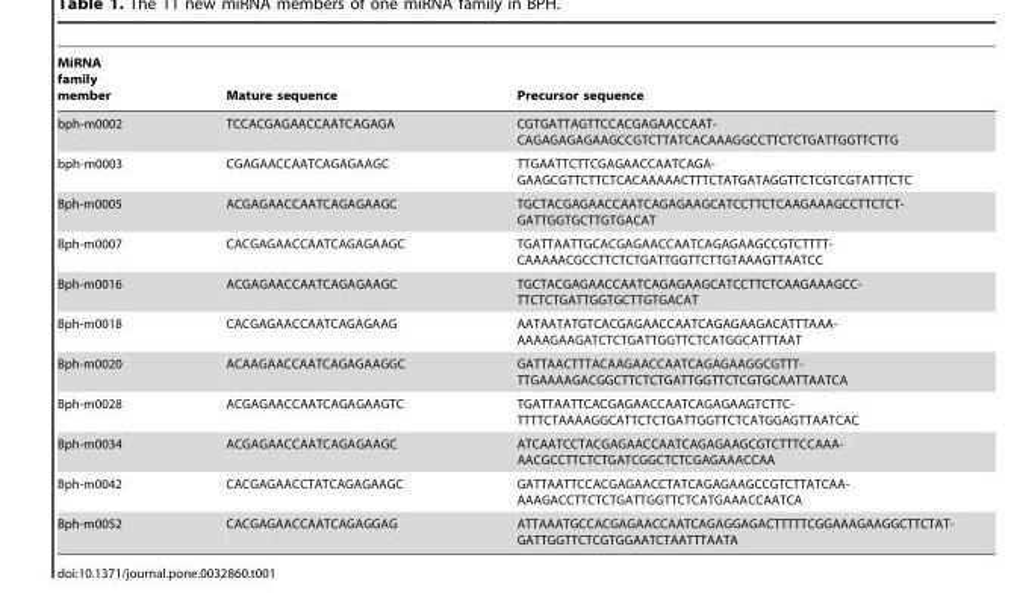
<table><thead><tr><td>MiRNA family member</td><td>Mature sequence</td><td>Precursor sequence</td></tr></thead><tbody><tr><td>bph-m0002</td><td>TCCACGAGAACCAATCAGAGA</td><td>CGTGATTAGTTCCACGAGAACCAAT- CAGAGAGAGAAGCCGTCTTATCACAAAGGCCTTCTCTGATTGGTTCTTG</td></tr><tr><td>bph-m0003</td><td>CGAGAACCAATCAGAGAAGC</td><td>TTGAATTCTTCGAGAACCAATCAGA- GAAGCGTTCTTCTCACAAAAACTTTCTATGATAGGTTCTCGTCGTATTTCTC</td></tr><tr><td>Bph-m0005</td><td>ACGAGAACCAATCAGAGAAGC</td><td>TGCTACGAGAACCAATCAGAGAAGCATCCTTCTCAAGAAAGCCTTCTCT- GATTGGTGCTTGTGACAT</td></tr><tr><td>Bph-m0007</td><td>CACGAGAACCAATCAGAGAAGC</td><td>TGATTAATTGCACGAGAACCAATCAGAGAAGCCGTCTTTT- CAAAAACGCCTTCTCTGATTGGTTCTTGTAAAGTTAATCC</td></tr><tr><td>Bph-m0016</td><td>ACGAGAACCAATCAGAGAAGC</td><td>TGCTACGAGAACCAATCAGAGAAGCATCCTTCTCAAGAAAGCC- TTCTCTGATTGGTGCTTGTGACAT</td></tr><tr><td>Bph-m0018</td><td>CACGAGAACCAATCAGAGAAG</td><td>AATAATATGTCACGAGAACCAATCAGAGAAGACATTTAAA- AAAAGAAGATCTCTGATTGGTTCTCATGGCATTTAAT</td></tr><tr><td>Bph-m0020</td><td>ACAAGAACCAATCAGAGAAGGC</td><td>GATTAACTTTACAAGAACCAATCAGAGAAGGCGTTT- TTGAAAAGACGGCTTCTCTGATTGGTTCTCGTGCAATTAATCA</td></tr><tr><td>Bph-m0028</td><td>ACGAGAACCAATCAGAGAAGTC</td><td>TGATTAATTCACGAGAACCAATCAGAGAAGTCTTC- TTTTCTAAAAGGCATTCTCTGATTGGTTCTCATGGAGTTAATCAC</td></tr><tr><td>Bph-m0034</td><td>ACGAGAACCAATCAGAGAAGC</td><td>ATCAATCCTACGAGAACCAATCAGAGAAGCGTCTTTCCAAA- AACGCCTTCTCTGATCGGCTCTCGAGAAACCAA</td></tr><tr><td>Bph-m0042</td><td>CACGAGAACCTATCAGAGAAGC</td><td>GATTAATTCCACGAGAACCTATCAGAGAAGCCGTCTTATCAA- AAAGACCTTCTCTGATTGGTTCTCATGAAACCAATCA</td></tr><tr><td>Bph-m0052</td><td>CACGAGAACCAATCAGAGGAG</td><td>ATTAAATGCCACGAGAACCAATCAGAGGAGACTTTTTCGGAAAGAAGGCTTCTAT- GATTGGTTCTCGTGGAATCTAATTTAATA</td></tr></tbody></table>